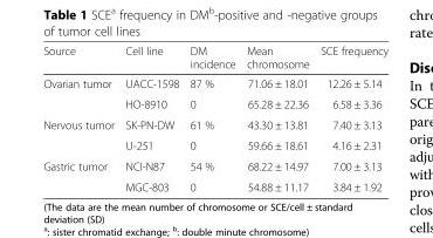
<table><thead><tr><td>Source</td><td>Cell line</td><td>DM incidence</td><td>Mean chromosome</td><td>SCE frequency</td></tr></thead><tbody><tr><td rowspan="2">Ovarian tumor</td><td>UACC-1598</td><td>87 %</td><td>71.06 ± 18.01</td><td>12.26 ± 5.14</td></tr><tr><td>HO-8910</td><td>0</td><td>65.28 ± 22.36</td><td>6.58 ± 3.36</td></tr><tr><td rowspan="2">Nervous tumor</td><td>SK-PN-DW</td><td>61 %</td><td>43.30 ± 13.81</td><td>7.40 ± 3.13</td></tr><tr><td>U-251</td><td>0</td><td>59.66 ± 18.61</td><td>4.16 ± 2.31</td></tr><tr><td rowspan="2">Gastric tumor</td><td>NCI-N87</td><td>54 %</td><td>68.22 ± 14.97</td><td>7.00 ± 3.13</td></tr><tr><td>MGC-803</td><td>0</td><td>54.88 ± 11.17</td><td>3.84 ± 1.92</td></tr></tbody></table>